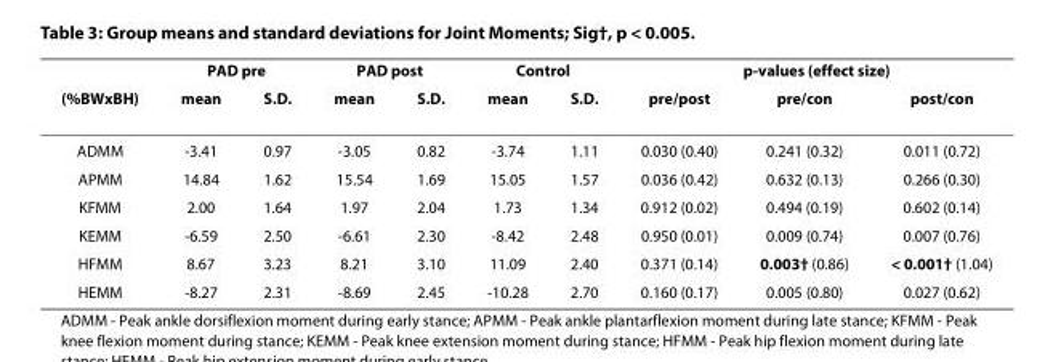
<table><thead><tr><td rowspan="2">(%BWxBH)</td><td colspan="2">PAD pre</td><td colspan="2">PAD post</td><td colspan="2">Control</td><td colspan="3">p-values (effect size)</td></tr><tr><td>mean</td><td>S.D.</td><td>mean</td><td>S.D.</td><td>mean</td><td>S.D.</td><td>pre/post</td><td>pre/con</td><td>post/con</td></tr></thead><tbody><tr><td>ADMM</td><td>-3.41</td><td>0.97</td><td>-3.05</td><td>0.82</td><td>-3.74</td><td>1.11</td><td>0.030 (0.40)</td><td>0.241 (0.32)</td><td>0.011 (0.72)</td></tr><tr><td>APMM</td><td>14.84</td><td>1.62</td><td>15.54</td><td>1.69</td><td>15.05</td><td>1.57</td><td>0.036 (0.42)</td><td>0.632 (0.13)</td><td>0.266 (0.30)</td></tr><tr><td>KFMM</td><td>2.00</td><td>1.64</td><td>1.97</td><td>2.04</td><td>1.73</td><td>1.34</td><td>0.912 (0.02)</td><td>0.494 (0.19)</td><td>0.602 (0.14)</td></tr><tr><td>KEMM</td><td>-6.59</td><td>2.50</td><td>-6.61</td><td>2.30</td><td>-8.42</td><td>2.48</td><td>0.950 (0.01)</td><td>0.009 (0.74)</td><td>0.007 (0.76)</td></tr><tr><td>HFMM</td><td>8.67</td><td>3.23</td><td>8.21</td><td>3.10</td><td>11.09</td><td>2.40</td><td>0.371 (0.14)</td><td>0.003† (0.86)</td><td>&lt; 0.001† (1.04)</td></tr><tr><td>HEMM</td><td>-8.27</td><td>2.31</td><td>-8.69</td><td>2.45</td><td>-10.28</td><td>2.70</td><td>0.160 (0.17)</td><td>0.005 (0.80)</td><td>0.027 (0.62)</td></tr></tbody></table>